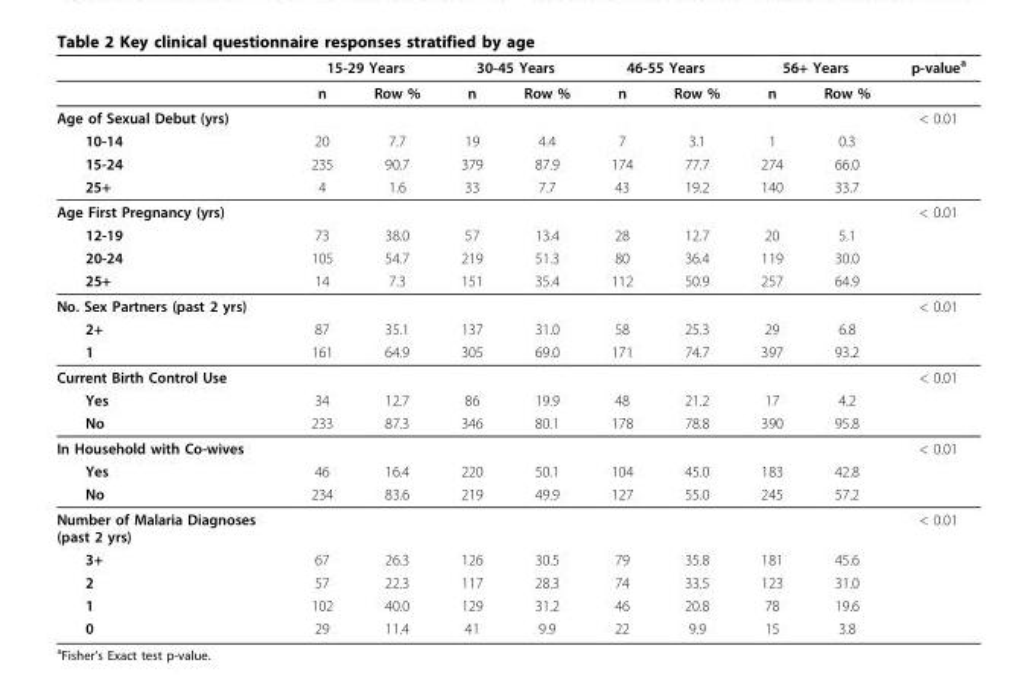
<table><thead><tr><td rowspan="2"></td><td colspan="2">15-29 Years</td><td colspan="2">30-45 Years</td><td colspan="2">46-55 Years</td><td colspan="2">56+ Years</td><td rowspan="2">p-value<sup>a</sup></td></tr><tr><td>n</td><td>Row %</td><td>n</td><td>Row %</td><td>n</td><td>Row %</td><td>n</td><td>Row %</td></tr></thead><tbody><tr><td>Age of Sexual Debut (yrs)</td><td></td><td></td><td></td><td></td><td></td><td></td><td></td><td></td><td>&lt; 0.01</td></tr><tr><td>10-14</td><td>20</td><td>7.7</td><td>19</td><td>4.4</td><td>7</td><td>3.1</td><td>1</td><td>0.3</td><td></td></tr><tr><td>15-24</td><td>235</td><td>90.7</td><td>379</td><td>87.9</td><td>174</td><td>77.7</td><td>274</td><td>66.0</td><td></td></tr><tr><td>25+</td><td>4</td><td>1.6</td><td>33</td><td>7.7</td><td>43</td><td>19.2</td><td>140</td><td>33.7</td><td></td></tr><tr><td>Age First Pregnancy (yrs)</td><td></td><td></td><td></td><td></td><td></td><td></td><td></td><td></td><td>&lt; 0.01</td></tr><tr><td>12-19</td><td>73</td><td>38.0</td><td>57</td><td>13.4</td><td>28</td><td>12.7</td><td>20</td><td>5.1</td><td></td></tr><tr><td>20-24</td><td>105</td><td>54.7</td><td>219</td><td>51.3</td><td>80</td><td>36.4</td><td>119</td><td>30.0</td><td></td></tr><tr><td>25+</td><td>14</td><td>7.3</td><td>151</td><td>35.4</td><td>112</td><td>50.9</td><td>257</td><td>64.9</td><td></td></tr><tr><td>No. Sex Partners (past 2 yrs)</td><td></td><td></td><td></td><td></td><td></td><td></td><td></td><td></td><td>&lt; 0.01</td></tr><tr><td>2+</td><td>87</td><td>35.1</td><td>137</td><td>31.0</td><td>58</td><td>25.3</td><td>29</td><td>6.8</td><td></td></tr><tr><td>1</td><td>161</td><td>64.9</td><td>305</td><td>69.0</td><td>171</td><td>74.7</td><td>397</td><td>93.2</td><td></td></tr><tr><td>Current Birth Control Use</td><td></td><td></td><td></td><td></td><td></td><td></td><td></td><td></td><td>&lt; 0.01</td></tr><tr><td>Yes</td><td>34</td><td>12.7</td><td>86</td><td>19.9</td><td>48</td><td>21.2</td><td>17</td><td>4.2</td><td></td></tr><tr><td>No</td><td>233</td><td>87.3</td><td>346</td><td>80.1</td><td>178</td><td>78.8</td><td>390</td><td>95.8</td><td></td></tr><tr><td>In Household with Co-wives</td><td></td><td></td><td></td><td></td><td></td><td></td><td></td><td></td><td>&lt; 0.01</td></tr><tr><td>Yes</td><td>46</td><td>16.4</td><td>220</td><td>50.1</td><td>104</td><td>45.0</td><td>183</td><td>42.8</td><td></td></tr><tr><td>No</td><td>234</td><td>83.6</td><td>219</td><td>49.9</td><td>127</td><td>55.0</td><td>245</td><td>57.2</td><td></td></tr><tr><td>Number of Malaria Diagnoses (past 2 yrs)</td><td></td><td></td><td></td><td></td><td></td><td></td><td></td><td></td><td>&lt; 0.01</td></tr><tr><td>3+</td><td>67</td><td>26.3</td><td>126</td><td>30.5</td><td>79</td><td>35.8</td><td>181</td><td>45.6</td><td></td></tr><tr><td>2</td><td>57</td><td>22.3</td><td>117</td><td>28.3</td><td>74</td><td>33.5</td><td>123</td><td>31.0</td><td></td></tr><tr><td>1</td><td>102</td><td>40.0</td><td>129</td><td>31.2</td><td>46</td><td>20.8</td><td>78</td><td>19.6</td><td></td></tr><tr><td>0</td><td>29</td><td>11.4</td><td>41</td><td>9.9</td><td>22</td><td>9.9</td><td>15</td><td>3.8</td><td></td></tr></tbody></table>